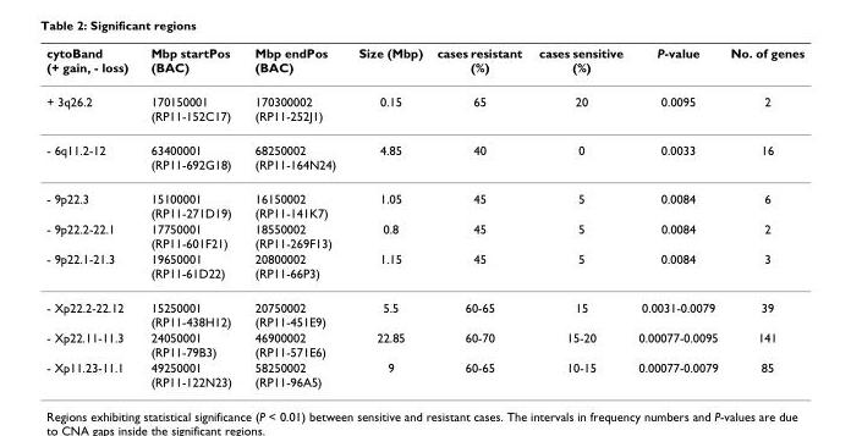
<table><thead><tr><td>cytoBand (+ gain, - loss)</td><td>Mbp startPos (BAC)</td><td>Mbp endPos (BAC)</td><td>Size (Mbp)</td><td>cases resistant (%)</td><td>cases sensitive (%)</td><td>P-value</td><td>No. of genes</td></tr></thead><tbody><tr><td>+ 3q26.2</td><td>170150001 (RP11-152C17)</td><td>170300002 (RP11-252J1)</td><td>0.15</td><td>65</td><td>20</td><td>0.0095</td><td>2</td></tr><tr><td>- 6q11.2-12</td><td>63400001 (RP11-692G18)</td><td>68250002 (RP11-164N24)</td><td>4.85</td><td>40</td><td>0</td><td>0.0033</td><td>16</td></tr><tr><td>- 9p22.3</td><td>15100001 (RP11-271D19)</td><td>16150002 (RP11-141K7)</td><td>1.05</td><td>45</td><td>5</td><td>0.0084</td><td>6</td></tr><tr><td>- 9p22.2-22.1</td><td>17750001 (RP11-601F21)</td><td>18550002 (RP11-269F13)</td><td>0.8</td><td>45</td><td>5</td><td>0.0084</td><td>2</td></tr><tr><td>- 9p22.1-21.3</td><td>19650001 (RP11-61D22)</td><td>20800002 (RP11-66P3)</td><td>1.15</td><td>45</td><td>5</td><td>0.0084</td><td>3</td></tr><tr><td>- Xp22.2-22.12</td><td>15250001 (RP11-438H12)</td><td>20750002 (RP11-451E9)</td><td>5.5</td><td>60-65</td><td>15</td><td>0.0031-0.0079</td><td>39</td></tr><tr><td>- Xp22.11-11.3</td><td>24050001 (RP11-79B3)</td><td>46900002 (RP11-571E6)</td><td>22.85</td><td>60-70</td><td>15-20</td><td>0.00077-0.0095</td><td>141</td></tr><tr><td>- Xp11.23-11.1</td><td>49250001 (RP11-122N23)</td><td>58250002 (RP11-96A5)</td><td>9</td><td>60-65</td><td>10-15</td><td>0.00077-0.0079</td><td>85</td></tr></tbody></table>